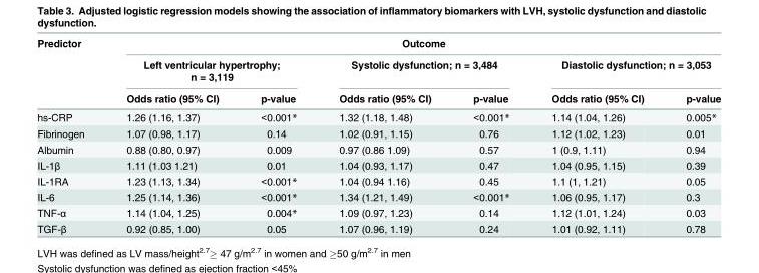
<table><thead><tr><td rowspan="3">Predictor</td><td colspan="6">Outcome</td></tr><tr><td colspan="2">Left ventricular hypertrophy; n = 3,119</td><td colspan="2">Systolic dysfunction; n = 3,484</td><td colspan="2">Diastolic dysfunction; n = 3,053</td></tr><tr><td>Odds ratio (95% CI)</td><td>p-value</td><td>Odds ratio (95% CI)</td><td>p-value</td><td>Odds ratio (95% CI)</td><td>p-value</td></tr></thead><tbody><tr><td>hs-CRP</td><td>1.26 (1.16, 1.37)</td><td>&lt;0.001*</td><td>1.32 (1.18, 1.48)</td><td>&lt;0.001*</td><td>1.14 (1.04, 1.26)</td><td>0.005*</td></tr><tr><td>Fibrinogen</td><td>1.07 (0.98, 1.17)</td><td>0.14</td><td>1.02 (0.91, 1.15)</td><td>0.76</td><td>1.12 (1.02, 1.23)</td><td>0.01</td></tr><tr><td>Albumin</td><td>0.88 (0.80, 0.97)</td><td>0.009</td><td>0.97 (0.86 1.09)</td><td>0.57</td><td>1 (0.9, 1.11)</td><td>0.94</td></tr><tr><td>IL-1β</td><td>1.11 (1.03 1.21)</td><td>0.01</td><td>1.04 (0.93, 1.17)</td><td>0.47</td><td>1.04 (0.95, 1.15)</td><td>0.39</td></tr><tr><td>IL-1RA</td><td>1.23 (1.13, 1.34)</td><td>&lt;0.001*</td><td>1.04 (0.94 1.16)</td><td>0.45</td><td>1.1 (1, 1.21)</td><td>0.05</td></tr><tr><td>IL-6</td><td>1.25 (1.14, 1.36)</td><td>&lt;0.001*</td><td>1.34 (1.21, 1.49)</td><td>&lt;0.001*</td><td>1.06 (0.95, 1.17)</td><td>0.3</td></tr><tr><td>TNF-α</td><td>1.14 (1.04, 1.25)</td><td>0.004*</td><td>1.09 (0.97, 1.23)</td><td>0.14</td><td>1.12 (1.01, 1.24)</td><td>0.03</td></tr><tr><td>TGF-β</td><td>0.92 (0.85, 1.00)</td><td>0.05</td><td>1.07 (0.96, 1.19)</td><td>0.24</td><td>1.01 (0.92, 1.11)</td><td>0.78</td></tr></tbody></table>